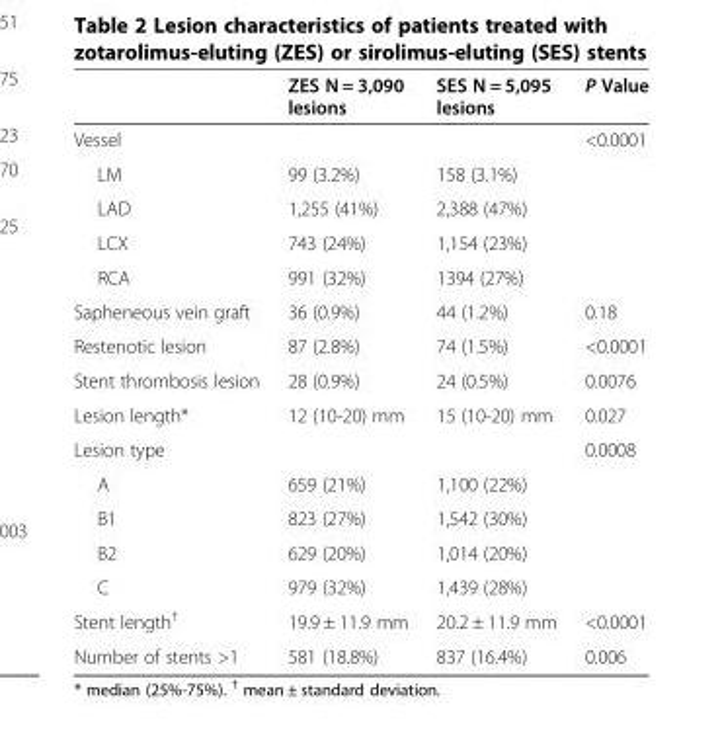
<table><thead><tr><td></td><td>ZES N = 3,090 lesions</td><td>SES N = 5,095 lesions</td><td>P Value</td></tr></thead><tbody><tr><td>Vessel</td><td></td><td></td><td>&lt;0.0001</td></tr><tr><td>LM</td><td>99 (3.2%)</td><td>158 (3.1%)</td><td></td></tr><tr><td>LAD</td><td>1,255 (41%)</td><td>2,388 (47%)</td><td></td></tr><tr><td>LCX</td><td>743 (24%)</td><td>1,154 (23%)</td><td></td></tr><tr><td>RCA</td><td>991 (32%)</td><td>1394 (27%)</td><td></td></tr><tr><td>Sapheneous vein graft</td><td>36 (0.9%)</td><td>44 (1.2%)</td><td>0.18</td></tr><tr><td>Restenotic lesion</td><td>87 (2.8%)</td><td>74 (1.5%)</td><td>&lt;0.0001</td></tr><tr><td>Stent thrombosis lesion</td><td>28 (0.9%)</td><td>24 (0.5%)</td><td>0.0076</td></tr><tr><td>Lesion length*</td><td>12 (10-20) mm</td><td>15 (10-20) mm</td><td>0.027</td></tr><tr><td>Lesion type</td><td></td><td></td><td>0.0008</td></tr><tr><td>A</td><td>659 (21%)</td><td>1,100 (22%)</td><td></td></tr><tr><td>B1</td><td>823 (27%)</td><td>1,542 (30%)</td><td></td></tr><tr><td>B2</td><td>629 (20%)</td><td>1,014 (20%)</td><td></td></tr><tr><td>C</td><td>979 (32%)</td><td>1,439 (28%)</td><td></td></tr><tr><td>Stent length<sup>†</sup></td><td>19.9 ± 11.9 mm</td><td>20.2 ± 11.9 mm</td><td>&lt;0.0001</td></tr><tr><td>Number of stents &gt;1</td><td>581 (18.8%)</td><td>837 (16.4%)</td><td>0.006</td></tr></tbody></table>